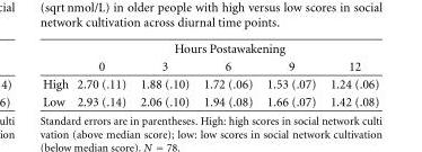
<table><thead><tr><td rowspan="2"></td><td colspan="5">Hours Postawakening</td></tr><tr><td>0</td><td>3</td><td>6</td><td>9</td><td>12</td></tr></thead><tbody><tr><td>High</td><td>2.70 (.11)</td><td>1.88 (.10)</td><td>1.72 (.06)</td><td>1.53 (.07)</td><td>1.24 (.06)</td></tr><tr><td>Low</td><td>2.93 (.14)</td><td>2.06 (.10)</td><td>1.94 (.08)</td><td>1.66 (.07)</td><td>1.42 (.08)</td></tr></tbody></table>